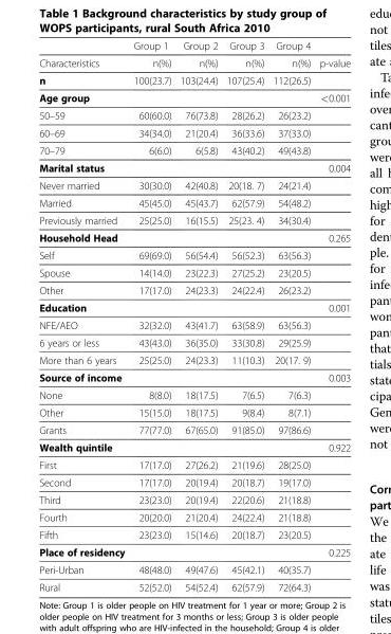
<table><thead><tr><td></td><td>Group 1</td><td>Group 2</td><td>Group 3</td><td>Group 4</td><td></td></tr></thead><tbody><tr><td>Characteristics</td><td>n(%)</td><td>n(%)</td><td>n(%)</td><td>n(%)</td><td>p-value</td></tr><tr><td>n</td><td>100(23.7)</td><td>103(24.4)</td><td>107(25.4)</td><td>112(26.5)</td><td></td></tr><tr><td>Age group</td><td></td><td></td><td></td><td></td><td>&lt;0.001</td></tr><tr><td>50–59</td><td>60(60.0)</td><td>76(73.8)</td><td>28(26.2)</td><td>26(23.2)</td><td></td></tr><tr><td>60–69</td><td>34(34.0)</td><td>21(20.4)</td><td>36(33.6)</td><td>37(33.0)</td><td></td></tr><tr><td>70–79</td><td>6(6.0)</td><td>6(5.8)</td><td>43(40.2)</td><td>49(43.8)</td><td></td></tr><tr><td>Marital status</td><td></td><td></td><td></td><td></td><td>0.004</td></tr><tr><td>Never married</td><td>30(30.0)</td><td>42(40.8)</td><td>20(18. 7)</td><td>24(21.4)</td><td></td></tr><tr><td>Married</td><td>45(45.0)</td><td>45(43.7)</td><td>62(57.9)</td><td>54(48.2)</td><td></td></tr><tr><td>Previously married</td><td>25(25.0)</td><td>16(15.5)</td><td>25(23. 4)</td><td>34(30.4)</td><td></td></tr><tr><td>Household Head</td><td></td><td></td><td></td><td></td><td>0.265</td></tr><tr><td>Self</td><td>69(69.0)</td><td>56(54.4)</td><td>56(52.3)</td><td>63(56.3)</td><td></td></tr><tr><td>Spouse</td><td>14(14.0)</td><td>23(22.3)</td><td>27(25.2)</td><td>23(20.5)</td><td></td></tr><tr><td>Other</td><td>17(17.0)</td><td>24(23.3)</td><td>24(22.4)</td><td>26(23.2)</td><td></td></tr><tr><td>Education</td><td></td><td></td><td></td><td></td><td>0.001</td></tr><tr><td>NFE/AEO</td><td>32(32.0)</td><td>43(41.7)</td><td>63(58.9)</td><td>63(56.3)</td><td></td></tr><tr><td>6 years or less</td><td>43(43.0)</td><td>36(35.0)</td><td>33(30.8)</td><td>29(25.9)</td><td></td></tr><tr><td>More than 6 years</td><td>25(25.0)</td><td>24(23.3)</td><td>11(10.3)</td><td>20(17. 9)</td><td></td></tr><tr><td>Source of income</td><td></td><td></td><td></td><td></td><td>0.003</td></tr><tr><td>None</td><td>8(8.0)</td><td>18(17.5)</td><td>7(6.5)</td><td>7(6.3)</td><td></td></tr><tr><td>Other</td><td>15(15.0)</td><td>18(17.5)</td><td>9(8.4)</td><td>8(7.1)</td><td></td></tr><tr><td>Grants</td><td>77(77.0)</td><td>67(65.0)</td><td>91(85.0)</td><td>97(86.6)</td><td></td></tr><tr><td>Wealth quintile</td><td></td><td></td><td></td><td></td><td>0.922</td></tr><tr><td>First</td><td>17(17.0)</td><td>27(26.2)</td><td>21(19.6)</td><td>28(25.0)</td><td></td></tr><tr><td>Second</td><td>17(17.0)</td><td>20(19.4)</td><td>20(18.7)</td><td>19(17.0)</td><td></td></tr><tr><td>Third</td><td>23(23.0)</td><td>20(19.4)</td><td>22(20.6)</td><td>21(18.8)</td><td></td></tr><tr><td>Fourth</td><td>20(20.0)</td><td>21(20.4)</td><td>24(22.4)</td><td>21(18.8)</td><td></td></tr><tr><td>Fifth</td><td>23(23.0)</td><td>15(14.6)</td><td>20(18.7)</td><td>23(20.5)</td><td></td></tr><tr><td>Place of residency</td><td></td><td></td><td></td><td></td><td>0.225</td></tr><tr><td>Peri-Urban</td><td>48(48.0)</td><td>49(47.6)</td><td>45(42.1)</td><td>40(35.7)</td><td></td></tr><tr><td>Rural</td><td>52(52.0)</td><td>54(52.4)</td><td>62(57.9)</td><td>72(64.3)</td><td></td></tr></tbody></table>